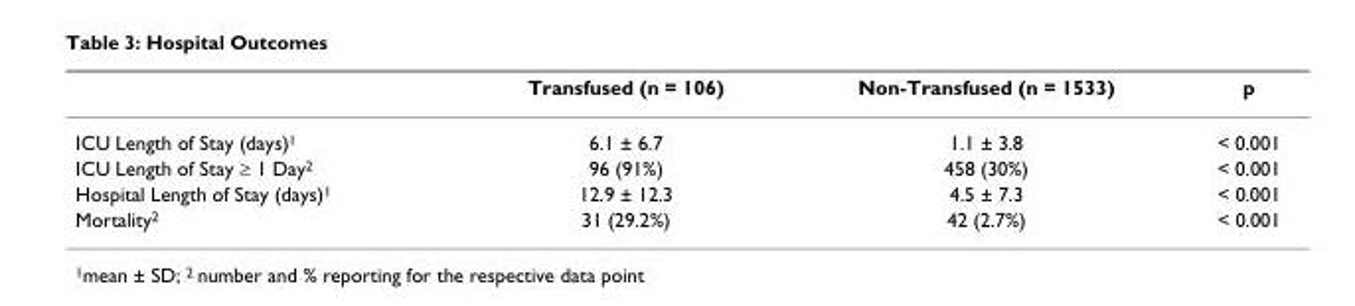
<table><thead><tr><td></td><td>Transfused (n = 106)</td><td>Non-Transfused (n = 1533)</td><td>p</td></tr></thead><tbody><tr><td>ICU Length of Stay (days)<sup>1</sup></td><td>6.1 ± 6.7</td><td>1.1 ± 3.8</td><td>&lt; 0.001</td></tr><tr><td>ICU Length of Stay ≥ 1 Day<sup>2</sup></td><td>96 (91%)</td><td>458 (30%)</td><td>&lt; 0.001</td></tr><tr><td>Hospital Length of Stay (days)<sup>1</sup></td><td>12.9 ± 12.3</td><td>4.5 ± 7.3</td><td>&lt; 0.001</td></tr><tr><td>Mortality<sup>2</sup></td><td>31 (29.2%)</td><td>42 (2.7%)</td><td>&lt; 0.001</td></tr></tbody></table>